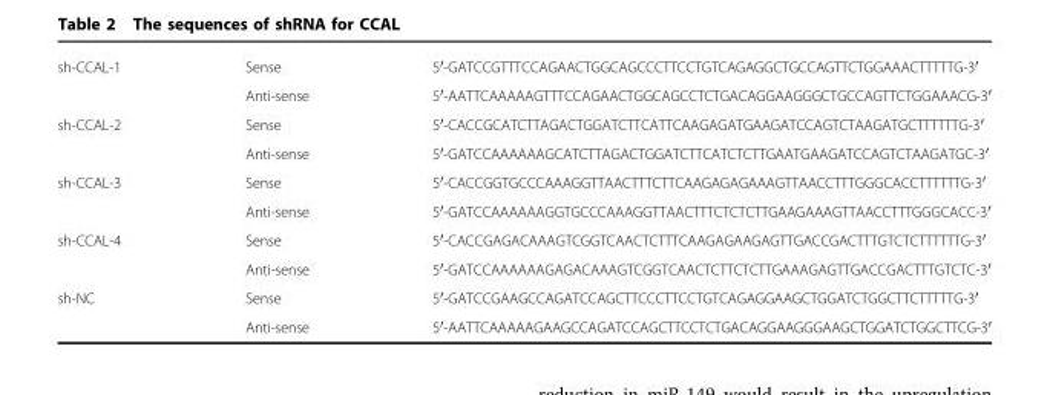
<table><tbody><tr><td rowspan="2">sh-CCAL-1</td><td>Sense</td><td>5′-GATCCGTTTCCAGAACTGGCAGCCCTTCCTGTCAGAGGCTGCCAGTTCTGGAAACTTTTTG-3′</td></tr><tr><td>Anti-sense</td><td>5′-AATTCAAAAAGTTTCCAGAACTGGCAGCCTCTGACAGGAAGGGCTGCCAGTTCTGGAAACG-3′</td></tr><tr><td rowspan="2">sh-CCAL-2</td><td>Sense</td><td>5′-CACCGCATCTTAGACTGGATCTTCATTCAAGAGATGAAGATCCAGTCTAAGATGCTTTTTTG-3′</td></tr><tr><td>Anti-sense</td><td>5′-GATCCAAAAAAGCATCTTAGACTGGATCTTCATCTCTTGAATGAAGATCCAGTCTAAGATGC-3′</td></tr><tr><td rowspan="2">sh-CCAL-3</td><td>Sense</td><td>5′-CACCGGTGCCCAAAGGTTAACTTTCTTCAAGAGAGAAAGTTAACCTTTGGGCACCTTTTTTG-3′</td></tr><tr><td>Anti-sense</td><td>5′-GATCCAAAAAAGGTGCCCAAAGGTTAACTTTCTCTCTTGAAGAAAGTTAACCTTTGGGCACC-3′</td></tr><tr><td rowspan="2">sh-CCAL-4</td><td>Sense</td><td>5′-CACCGAGACAAAGTCGGTCAACTCTTTCAAGAGAAGAGTTGACCGACTTTGTCTCTTTTTTG-3′</td></tr><tr><td>Anti-sense</td><td>5′-GATCCAAAAAAGAGACAAAGTCGGTCAACTCTTCTCTTGAAAGAGTTGACCGACTTTGTCTC-3′</td></tr><tr><td rowspan="2">sh-NC</td><td>Sense</td><td>5′-GATCCGAAGCCAGATCCAGCTTCCCTTCCTGTCAGAGGAAGCTGGATCTGGCTTCTTTTTG-3′</td></tr><tr><td>Anti-sense</td><td>5′-AATTCAAAAAGAAGCCAGATCCAGCTTCCTCTGACAGGAAGGGAAGCTGGATCTGGCTTCG-3′</td></tr></tbody></table>